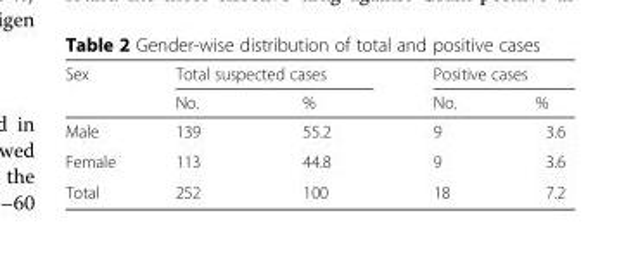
<table><thead><tr><td rowspan="2">Sex</td><td colspan="2">Total suspected cases</td><td colspan="2">Positive cases</td></tr><tr><td>No.</td><td>%</td><td>No.</td><td>%</td></tr></thead><tbody><tr><td>Male</td><td>139</td><td>55.2</td><td>9</td><td>3.6</td></tr><tr><td>Female</td><td>113</td><td>44.8</td><td>9</td><td>3.6</td></tr><tr><td>Total</td><td>252</td><td>100</td><td>18</td><td>7.2</td></tr></tbody></table>